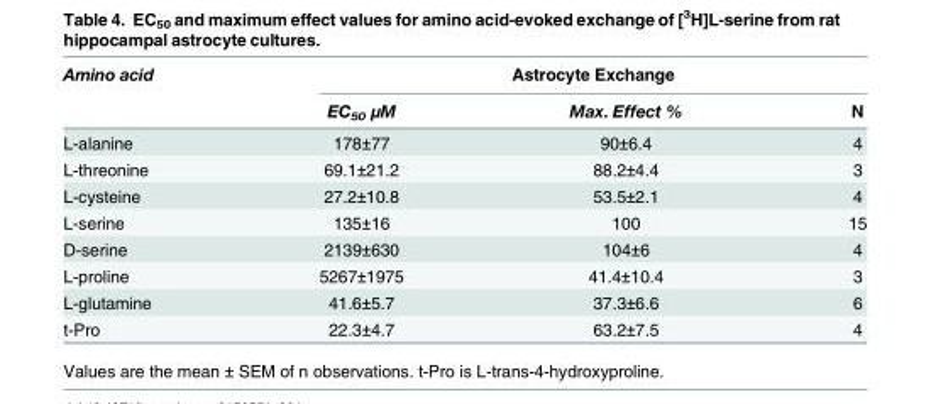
<table><thead><tr><td rowspan="2">Amino acid</td><td colspan="3">Astrocyte Exchange</td></tr><tr><td>EC<sub>50</sub> μM</td><td>Max. Effect %</td><td>N</td></tr></thead><tbody><tr><td>L-alanine</td><td>178±77</td><td>90±6.4</td><td>4</td></tr><tr><td>L-threonine</td><td>69.1±21.2</td><td>88.2±4.4</td><td>3</td></tr><tr><td>L-cysteine</td><td>27.2±10.8</td><td>53.5±2.1</td><td>4</td></tr><tr><td>L-serine</td><td>135±16</td><td>100</td><td>15</td></tr><tr><td>D-serine</td><td>2139±630</td><td>104±6</td><td>4</td></tr><tr><td>L-proline</td><td>5267±1975</td><td>41.4±10.4</td><td>3</td></tr><tr><td>L-glutamine</td><td>41.6±5.7</td><td>37.3±6.6</td><td>6</td></tr><tr><td>t-Pro</td><td>22.3±4.7</td><td>63.2±7.5</td><td>4</td></tr></tbody></table>